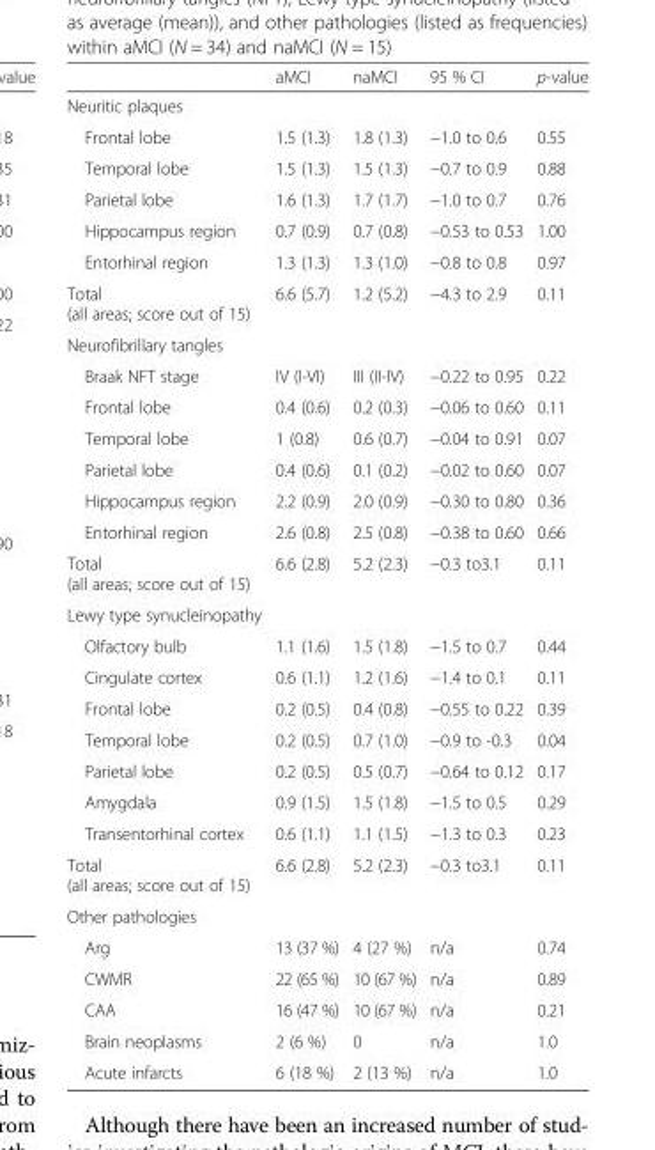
<table><thead><tr><td></td><td>aMCI</td><td>naMCI</td><td>95 % CI</td><td>p-value</td></tr></thead><tbody><tr><td colspan="5">Neuritic plaques</td></tr><tr><td>Frontal lobe</td><td>1.5 (1.3)</td><td>1.8 (1.3)</td><td>−1.0 to 0.6</td><td>0.55</td></tr><tr><td>Temporal lobe</td><td>1.5 (1.3)</td><td>1.5 (1.3)</td><td>−0.7 to 0.9</td><td>0.88</td></tr><tr><td>Parietal lobe</td><td>1.6 (1.3)</td><td>1.7 (1.7)</td><td>−1.0 to 0.7</td><td>0.76</td></tr><tr><td>Hippocampus region</td><td>0.7 (0.9)</td><td>0.7 (0.8)</td><td>−0.53 to 0.53</td><td>1.00</td></tr><tr><td>Entorhinal region</td><td>1.3 (1.3)</td><td>1.3 (1.0)</td><td>−0.8 to 0.8</td><td>0.97</td></tr><tr><td>Total (all areas; score out of 15)</td><td>6.6 (5.7)</td><td>1.2 (5.2)</td><td>−4.3 to 2.9</td><td>0.11</td></tr><tr><td colspan="5">Neurofibrillary tangles</td></tr><tr><td>Braak NFT stage</td><td>IV (I-VI)</td><td>III (II-IV)</td><td>−0.22 to 0.95</td><td>0.22</td></tr><tr><td>Frontal lobe</td><td>0.4 (0.6)</td><td>0.2 (0.3)</td><td>−0.06 to 0.60</td><td>0.11</td></tr><tr><td>Temporal lobe</td><td>1 (0.8)</td><td>0.6 (0.7)</td><td>−0.04 to 0.91</td><td>0.07</td></tr><tr><td>Parietal lobe</td><td>0.4 (0.6)</td><td>0.1 (0.2)</td><td>−0.02 to 0.60</td><td>0.07</td></tr><tr><td>Hippocampus region</td><td>2.2 (0.9)</td><td>2.0 (0.9)</td><td>−0.30 to 0.80</td><td>0.36</td></tr><tr><td>Entorhinal region</td><td>2.6 (0.8)</td><td>2.5 (0.8)</td><td>−0.38 to 0.60</td><td>0.66</td></tr><tr><td>Total (all areas; score out of 15)</td><td>6.6 (2.8)</td><td>5.2 (2.3)</td><td>−0.3 to3.1</td><td>0.11</td></tr><tr><td colspan="5">Lewy type synucleinopathy</td></tr><tr><td>Olfactory bulb</td><td>1.1 (1.6)</td><td>1.5 (1.8)</td><td>−1.5 to 0.7</td><td>0.44</td></tr><tr><td>Cingulate cortex</td><td>0.6 (1.1)</td><td>1.2 (1.6)</td><td>−1.4 to 0.1</td><td>0.11</td></tr><tr><td>Frontal lobe</td><td>0.2 (0.5)</td><td>0.4 (0.8)</td><td>−0.55 to 0.22</td><td>0.39</td></tr><tr><td>Temporal lobe</td><td>0.2 (0.5)</td><td>0.7 (1.0)</td><td>−0.9 to -0.3</td><td>0.04</td></tr><tr><td>Parietal lobe</td><td>0.2 (0.5)</td><td>0.5 (0.7)</td><td>−0.64 to 0.12</td><td>0.17</td></tr><tr><td>Amygdala</td><td>0.9 (1.5)</td><td>1.5 (1.8)</td><td>−1.5 to 0.5</td><td>0.29</td></tr><tr><td>Transentorhinal cortex</td><td>0.6 (1.1)</td><td>1.1 (1.5)</td><td>−1.3 to 0.3</td><td>0.23</td></tr><tr><td>Total (all areas; score out of 15)</td><td>6.6 (2.8)</td><td>5.2 (2.3)</td><td>−0.3 to3.1</td><td>0.11</td></tr><tr><td colspan="5">Other pathologies</td></tr><tr><td>Arg</td><td>13 (37 %)</td><td>4 (27 %)</td><td>n/a</td><td>0.74</td></tr><tr><td>CWMR</td><td>22 (65 %)</td><td>10 (67 %)</td><td>n/a</td><td>0.89</td></tr><tr><td>CAA</td><td>16 (47 %)</td><td>10 (67 %)</td><td>n/a</td><td>0.21</td></tr><tr><td>Brain neoplasms</td><td>2 (6 %)</td><td>0</td><td>n/a</td><td>1.0</td></tr><tr><td>Acute infarcts</td><td>6 (18 %)</td><td>2 (13 %)</td><td>n/a</td><td>1.0</td></tr></tbody></table>